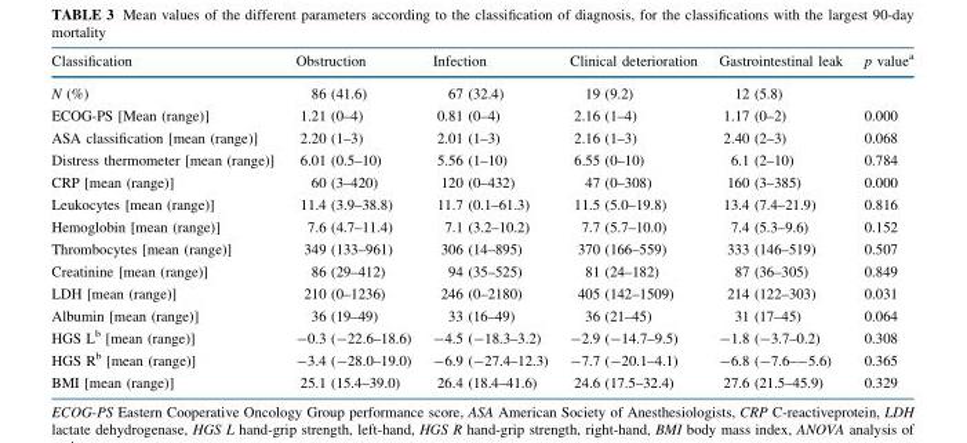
<table><thead><tr><td>Classification</td><td>Obstruction</td><td>Infection</td><td>Clinical deterioration</td><td>Gastrointestinal leak</td><td>p value<sup>a</sup></td></tr></thead><tbody><tr><td>N (%)</td><td>86 (41.6)</td><td>67 (32.4)</td><td>19 (9.2)</td><td>12 (5.8)</td><td></td></tr><tr><td>ECOG-PS [Mean (range)]</td><td>1.21 (0–4)</td><td>0.81 (0–4)</td><td>2.16 (1–4)</td><td>1.17 (0–2)</td><td>0.000</td></tr><tr><td>ASA classification [mean (range)]</td><td>2.20 (1–3)</td><td>2.01 (1–3)</td><td>2.16 (1–3)</td><td>2.40 (2–3)</td><td>0.068</td></tr><tr><td>Distress thermometer [mean (range)]</td><td>6.01 (0.5–10)</td><td>5.56 (1–10)</td><td>6.55 (0–10)</td><td>6.1 (2–10)</td><td>0.784</td></tr><tr><td>CRP [mean (range)]</td><td>60 (3–420)</td><td>120 (0–432)</td><td>47 (0–308)</td><td>160 (3–385)</td><td>0.000</td></tr><tr><td>Leukocytes [mean (range)]</td><td>11.4 (3.9–38.8)</td><td>11.7 (0.1–61.3)</td><td>11.5 (5.0–19.8)</td><td>13.4 (7.4–21.9)</td><td>0.816</td></tr><tr><td>Hemoglobin [mean (range)]</td><td>7.6 (4.7–11.4)</td><td>7.1 (3.2–10.2)</td><td>7.7 (5.7–10.0)</td><td>7.4 (5.3–9.6)</td><td>0.152</td></tr><tr><td>Thrombocytes [mean (range)]</td><td>349 (133–961)</td><td>306 (14–895)</td><td>370 (166–559)</td><td>333 (146–519)</td><td>0.507</td></tr><tr><td>Creatinine [mean (range)]</td><td>86 (29–412)</td><td>94 (35–525)</td><td>81 (24–182)</td><td>87 (36–305)</td><td>0.849</td></tr><tr><td>LDH [mean (range)]</td><td>210 (0–1236)</td><td>246 (0–2180)</td><td>405 (142–1509)</td><td>214 (122–303)</td><td>0.031</td></tr><tr><td>Albumin [mean (range)]</td><td>36 (19–49)</td><td>33 (16–49)</td><td>36 (21–45)</td><td>31 (17–45)</td><td>0.064</td></tr><tr><td>HGS L<sup>b</sup> [mean (range)]</td><td>-0.3 (-22.6–18.6)</td><td>-4.5 (-18.3–3.2)</td><td>-2.9 (-14.7–9.5)</td><td>-1.8 (-3.7–0.2)</td><td>0.308</td></tr><tr><td>HGS R<sup>b</sup> [mean (range)]</td><td>-3.4 (-28.0–19.0)</td><td>-6.9 (-27.4–12.3)</td><td>-7.7 (-20.1–4.1)</td><td>-6.8 (-7.6–-5.6)</td><td>0.365</td></tr><tr><td>BMI [mean (range)]</td><td>25.1 (15.4–39.0)</td><td>26.4 (18.4–41.6)</td><td>24.6 (17.5–32.4)</td><td>27.6 (21.5–45.9)</td><td>0.329</td></tr></tbody></table>